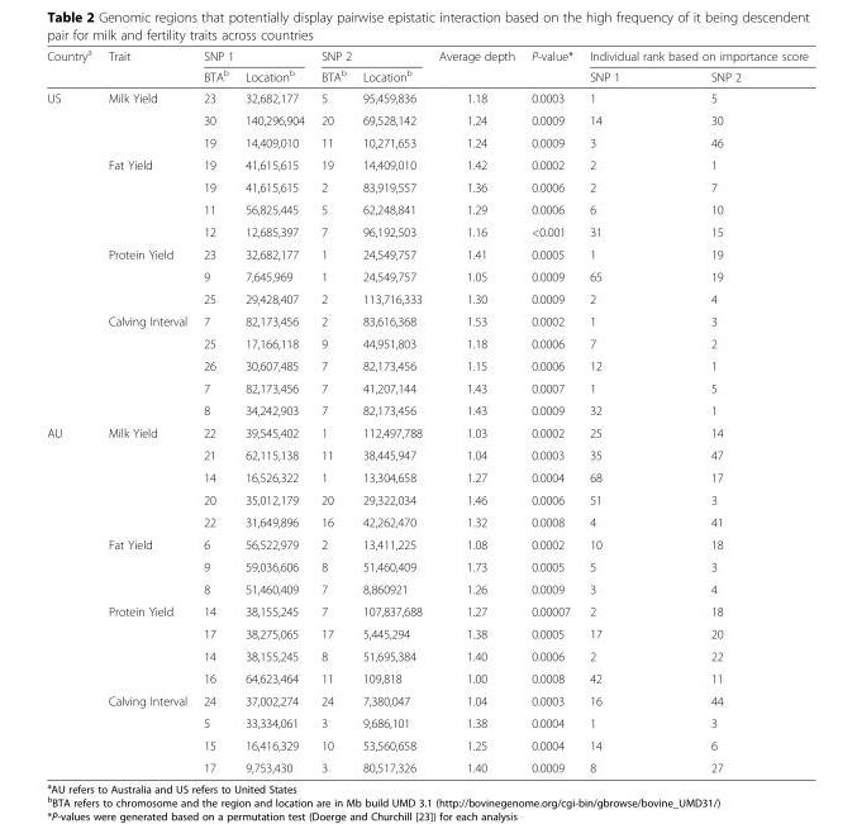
<table><thead><tr><td rowspan="2">Country<sup>a</sup></td><td rowspan="2">Trait</td><td colspan="2">SNP 1</td><td colspan="2">SNP 2</td><td rowspan="2">Average depth</td><td rowspan="2">P-value*</td><td colspan="2">Individual rank based on importance score</td></tr><tr><td>BTA<sup>b</sup></td><td>Location<sup>b</sup></td><td>BTA<sup>b</sup></td><td>Location<sup>b</sup></td><td>SNP 1</td><td>SNP 2</td></tr></thead><tbody><tr><td rowspan="15">US</td><td rowspan="3">Milk Yield</td><td>23</td><td>32,682,177</td><td>5</td><td>95,459,836</td><td>1.18</td><td>0.0003</td><td>1</td><td>5</td></tr><tr><td>30</td><td>140,296,904</td><td>20</td><td>69,528,142</td><td>1.24</td><td>0.0009</td><td>14</td><td>30</td></tr><tr><td>19</td><td>14,409,010</td><td>11</td><td>10,271,653</td><td>1.24</td><td>0.0009</td><td>3</td><td>46</td></tr><tr><td rowspan="4">Fat Yield</td><td>19</td><td>41,615,615</td><td>19</td><td>14,409,010</td><td>1.42</td><td>0.0002</td><td>2</td><td>1</td></tr><tr><td>19</td><td>41,615,615</td><td>2</td><td>83,919,557</td><td>1.36</td><td>0.0006</td><td>2</td><td>7</td></tr><tr><td>11</td><td>56,825,445</td><td>5</td><td>62,248,841</td><td>1.29</td><td>0.0006</td><td>6</td><td>10</td></tr><tr><td>12</td><td>12,685,397</td><td>7</td><td>96,192,503</td><td>1.16</td><td>&lt;0.001</td><td>31</td><td>15</td></tr><tr><td rowspan="3">Protein Yield</td><td>23</td><td>32,682,177</td><td>1</td><td>24,549,757</td><td>1.41</td><td>0.0005</td><td>1</td><td>19</td></tr><tr><td>9</td><td>7,645,969</td><td>1</td><td>24,549,757</td><td>1.05</td><td>0.0009</td><td>65</td><td>19</td></tr><tr><td>25</td><td>29,428,407</td><td>2</td><td>113,716,333</td><td>1.30</td><td>0.0009</td><td>2</td><td>4</td></tr><tr><td rowspan="5">Calving Interval</td><td>7</td><td>82,173,456</td><td>2</td><td>83,616,368</td><td>1.53</td><td>0.0002</td><td>1</td><td>3</td></tr><tr><td>25</td><td>17,166,118</td><td>9</td><td>44,951,803</td><td>1.18</td><td>0.0006</td><td>7</td><td>2</td></tr><tr><td>26</td><td>30,607,485</td><td>7</td><td>82,173,456</td><td>1.15</td><td>0.0006</td><td>12</td><td>1</td></tr><tr><td>7</td><td>82,173,456</td><td>7</td><td>41,207,144</td><td>1.43</td><td>0.0007</td><td>1</td><td>5</td></tr><tr><td>8</td><td>34,242,903</td><td>7</td><td>82,173,456</td><td>1.43</td><td>0.0009</td><td>32</td><td>1</td></tr><tr><td rowspan="16">AU</td><td rowspan="5">Milk Yield</td><td>22</td><td>39,545,402</td><td>1</td><td>112,497,788</td><td>1.03</td><td>0.0002</td><td>25</td><td>14</td></tr><tr><td>21</td><td>62,115,138</td><td>11</td><td>38,445,947</td><td>1.04</td><td>0.0003</td><td>35</td><td>47</td></tr><tr><td>14</td><td>16,526,322</td><td>1</td><td>13,304,658</td><td>1.27</td><td>0.0004</td><td>68</td><td>17</td></tr><tr><td>20</td><td>35,012,179</td><td>20</td><td>29,322,034</td><td>1.46</td><td>0.0006</td><td>51</td><td>3</td></tr><tr><td>22</td><td>31,649,896</td><td>16</td><td>42,262,470</td><td>1.32</td><td>0.0008</td><td>4</td><td>41</td></tr><tr><td rowspan="3">Fat Yield</td><td>6</td><td>56,522,979</td><td>2</td><td>13,411,225</td><td>1.08</td><td>0.0002</td><td>10</td><td>18</td></tr><tr><td>9</td><td>59,036,606</td><td>8</td><td>51,460,409</td><td>1.73</td><td>0.0005</td><td>5</td><td>3</td></tr><tr><td>8</td><td>51,460,409</td><td>7</td><td>8,860921</td><td>1.26</td><td>0.0009</td><td>3</td><td>4</td></tr><tr><td rowspan="4">Protein Yield</td><td>14</td><td>38,155,245</td><td>7</td><td>107,837,688</td><td>1.27</td><td>0.00007</td><td>2</td><td>18</td></tr><tr><td>17</td><td>38,275,065</td><td>17</td><td>5,445,294</td><td>1.38</td><td>0.0005</td><td>17</td><td>20</td></tr><tr><td>14</td><td>38,155,245</td><td>8</td><td>51,695,384</td><td>1.40</td><td>0.0006</td><td>2</td><td>22</td></tr><tr><td>16</td><td>64,623,464</td><td>11</td><td>109,818</td><td>1.00</td><td>0.0008</td><td>42</td><td>11</td></tr><tr><td rowspan="4">Calving Interval</td><td>24</td><td>37,002,274</td><td>24</td><td>7,380,047</td><td>1.04</td><td>0.0003</td><td>16</td><td>44</td></tr><tr><td>5</td><td>33,334,061</td><td>3</td><td>9,686,101</td><td>1.38</td><td>0.0004</td><td>1</td><td>3</td></tr><tr><td>15</td><td>16,416,329</td><td>10</td><td>53,560,658</td><td>1.25</td><td>0.0004</td><td>14</td><td>6</td></tr><tr><td>17</td><td>9,753,430</td><td>3</td><td>80,517,326</td><td>1.40</td><td>0.0009</td><td>8</td><td>27</td></tr></tbody></table>